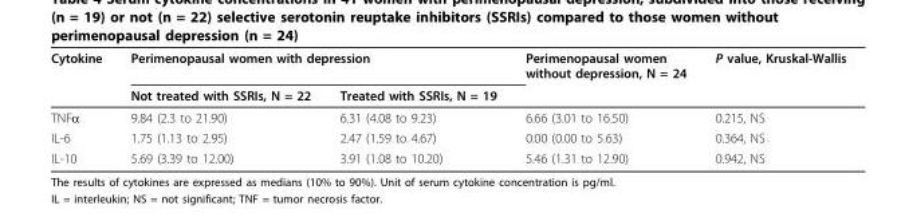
<table><thead><tr><td rowspan="2">Cytokine</td><td colspan="2">Perimenopausal women with depression</td><td rowspan="2">Perimenopausal women without depression, N = 24</td><td rowspan="2">P value, Kruskal-Wallis</td></tr><tr><td>Not treated with SSRIs, N = 22</td><td>Treated with SSRIs, N = 19</td></tr></thead><tbody><tr><td>TNFα</td><td>9.84 (2.3 to 21.90)</td><td>6.31 (4.08 to 9.23)</td><td>6.66 (3.01 to 16.50)</td><td>0.215, NS</td></tr><tr><td>IL-6</td><td>1.75 (1.13 to 2.95)</td><td>2.47 (1.59 to 4.67)</td><td>0.00 (0.00 to 5.63)</td><td>0.364, NS</td></tr><tr><td>IL-10</td><td>5.69 (3.39 to 12.00)</td><td>3.91 (1.08 to 10.20)</td><td>5.46 (1.31 to 12.90)</td><td>0.942, NS</td></tr></tbody></table>